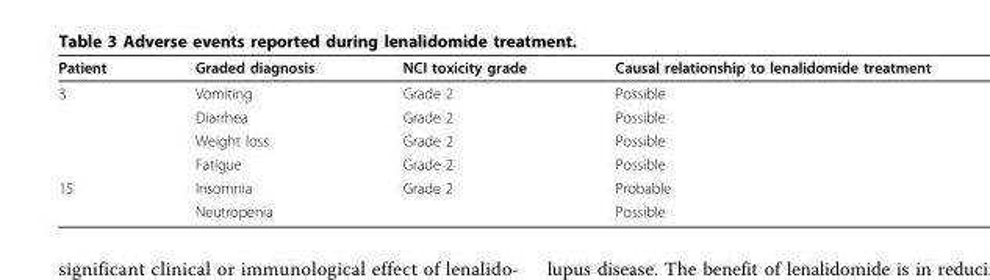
<table><thead><tr><td>Patient</td><td>Graded diagnosis</td><td>NCI toxicity grade</td><td>Causal relationship to lenalidomide treatment</td></tr></thead><tbody><tr><td rowspan="4">3</td><td>Vomiting</td><td>Grade 2</td><td>Possible</td></tr><tr><td>Diarrhea</td><td>Grade 2</td><td>Possible</td></tr><tr><td>Weight loss</td><td>Grade 2</td><td>Possible</td></tr><tr><td>Fatigue</td><td>Grade 2</td><td>Possible</td></tr><tr><td rowspan="2">15</td><td>Insomnia</td><td>Grade 2</td><td>Probable</td></tr><tr><td>Neutropenia</td><td></td><td>Possible</td></tr></tbody></table>